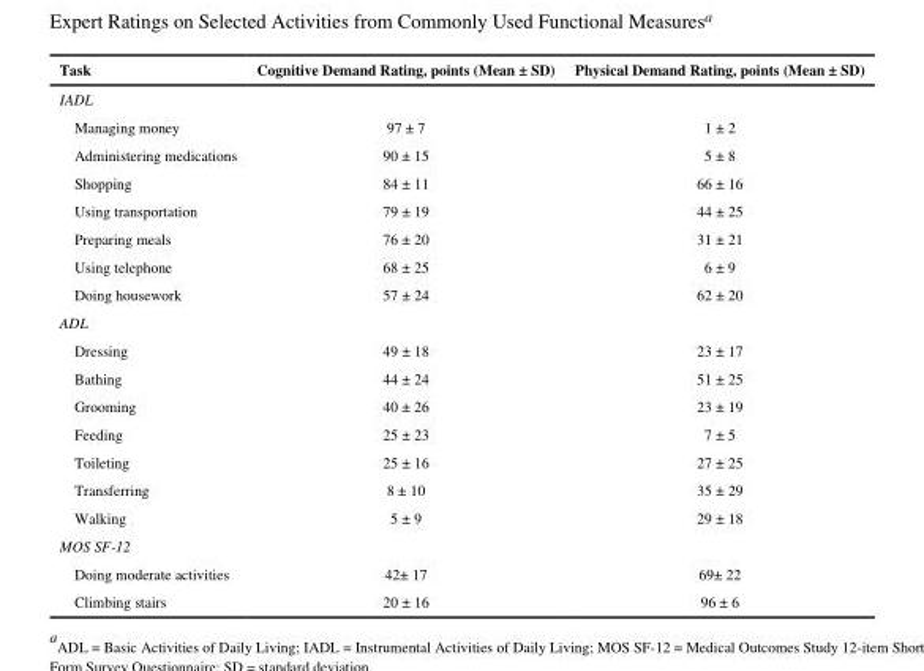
<table><thead><tr><td>Task</td><td>Cognitive Demand Rating, points (Mean ± SD)</td><td>Physical Demand Rating, points (Mean ± SD)</td></tr></thead><tbody><tr><td colspan="3">IADL</td></tr><tr><td>Managing money</td><td>97 ± 7</td><td>1 ± 2</td></tr><tr><td>Administering medications</td><td>90 ± 15</td><td>5 ± 8</td></tr><tr><td>Shopping</td><td>84 ± 11</td><td>66 ± 16</td></tr><tr><td>Using transportation</td><td>79 ± 19</td><td>44 ± 25</td></tr><tr><td>Preparing meals</td><td>76 ± 20</td><td>31 ± 21</td></tr><tr><td>Using telephone</td><td>68 ± 25</td><td>6 ± 9</td></tr><tr><td>Doing housework</td><td>57 ± 24</td><td>62 ± 20</td></tr><tr><td colspan="3">ADL</td></tr><tr><td>Dressing</td><td>49 ± 18</td><td>23 ± 17</td></tr><tr><td>Bathing</td><td>44 ± 24</td><td>51 ± 25</td></tr><tr><td>Grooming</td><td>40 ± 26</td><td>23 ± 19</td></tr><tr><td>Feeding</td><td>25 ± 23</td><td>7 ± 5</td></tr><tr><td>Toileting</td><td>25 ± 16</td><td>27 ± 25</td></tr><tr><td>Transferring</td><td>8 ± 10</td><td>35 ± 29</td></tr><tr><td>Walking</td><td>5 ± 9</td><td>29 ± 18</td></tr><tr><td colspan="3">MOS SF-12</td></tr><tr><td>Doing moderate activities</td><td>42± 17</td><td>69± 22</td></tr><tr><td>Climbing stairs</td><td>20 ± 16</td><td>96 ± 6</td></tr></tbody></table>